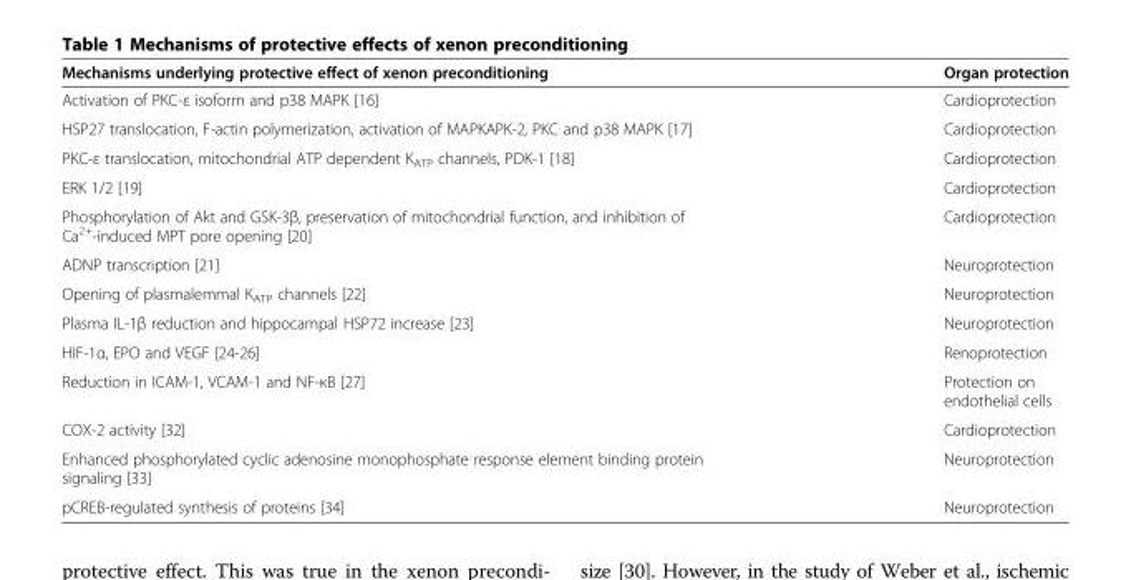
<table><thead><tr><td>Mechanisms underlying protective effect of xenon preconditioning</td><td>Organ protection</td></tr></thead><tbody><tr><td>Activation of PKC-ε isoform and p38 MAPK [16]</td><td>Cardioprotection</td></tr><tr><td>HSP27 translocation, F-actin polymerization, activation of MAPKAPK-2, PKC and p38 MAPK [17]</td><td>Cardioprotection</td></tr><tr><td>PKC-ε translocation, mitochondrial ATP dependent K<sub>ATP</sub> channels, PDK-1 [18]</td><td>Cardioprotection</td></tr><tr><td>ERK 1/2 [19]</td><td>Cardioprotection</td></tr><tr><td>Phosphorylation of Akt and GSK-3β, preservation of mitochondrial function, and inhibition of Ca<sup>2+</sup>-induced MPT pore opening [20]</td><td>Cardioprotection</td></tr><tr><td>ADNP transcription [21]</td><td>Neuroprotection</td></tr><tr><td>Opening of plasmalemmal K<sub>ATP</sub> channels [22]</td><td>Neuroprotection</td></tr><tr><td>Plasma IL-1β reduction and hippocampal HSP72 increase [23]</td><td>Neuroprotection</td></tr><tr><td>HIF-1α, EPO and VEGF [24-26]</td><td>Renoprotection</td></tr><tr><td>Reduction in ICAM-1, VCAM-1 and NF-κB [27]</td><td>Protection on endothelial cells</td></tr><tr><td>COX-2 activity [32]</td><td>Cardioprotection</td></tr><tr><td>Enhanced phosphorylated cyclic adenosine monophosphate response element binding protein signaling [33]</td><td>Neuroprotection</td></tr><tr><td>pCREB-regulated synthesis of proteins [34]</td><td>Neuroprotection</td></tr></tbody></table>